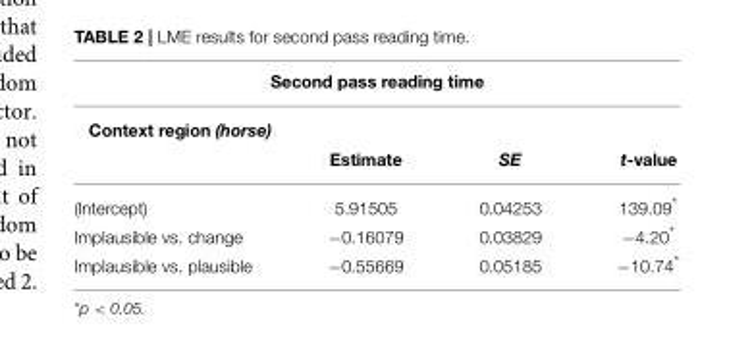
<table><thead><tr><td rowspan="2" colspan="4">Second pass reading time Context region (horse)</td></tr><tr></tr><tr><td></td><td>Estimate</td><td>SE</td><td>t-value</td></tr></thead><tbody><tr><td>(Intercept)</td><td>5.91505</td><td>0.04253</td><td>139.09*</td></tr><tr><td>Implausible vs. change</td><td>−0.16079</td><td>0.03829</td><td>−4.20*</td></tr><tr><td>Implausible vs. plausible</td><td>−0.55669</td><td>0.05185</td><td>−10.74*</td></tr></tbody></table>